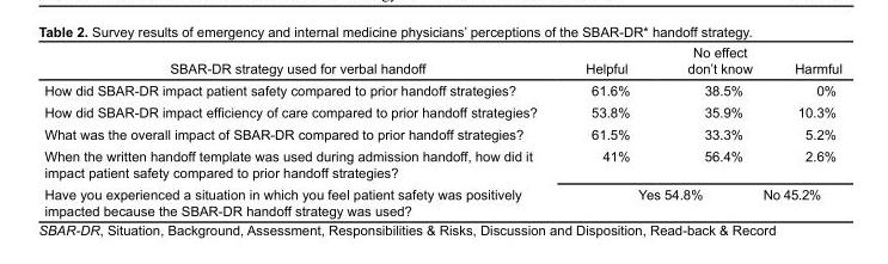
<table><thead><tr><td>SBAR-DR strategy used for verbal handoff</td><td>Helpful</td><td>No effect don’t know</td><td>Harmful</td></tr></thead><tbody><tr><td>How did SBAR-DR impact patient safety compared to prior handoff strategies?</td><td>61.6%</td><td>38.5%</td><td>0%</td></tr><tr><td>How did SBAR-DR impact efficiency of care compared to prior handoff strategies?</td><td>53.8%</td><td>35.9%</td><td>10.3%</td></tr><tr><td>What was the overall impact of SBAR-DR compared to prior handoff strategies?</td><td>61.5%</td><td>33.3%</td><td>5.2%</td></tr><tr><td>When the written handoff template was used during admission handoff, how did it impact patient safety compared to prior handoff strategies?</td><td>41%</td><td>56.4%</td><td>2.6%</td></tr><tr><td>Have you experienced a situation in which you feel patient safety was positively impacted because the SBAR-DR handoff strategy was used?</td><td colspan="2">Yes 54.8%</td><td>No 45.2%</td></tr></tbody></table>